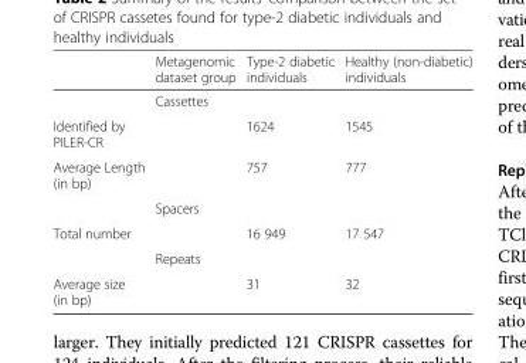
<table><thead><tr><td></td><td>Metagenomic dataset group</td><td>Type-2 diabetic individuals</td><td>Healthy (non-diabetic) individuals</td></tr></thead><tbody><tr><td></td><td>Cassettes</td><td></td><td></td></tr><tr><td>Identified by PILER-CR</td><td></td><td>1624</td><td>1545</td></tr><tr><td rowspan="2">Average Length (in bp)</td><td></td><td>757</td><td>777</td></tr><tr><td>Spacers</td><td></td><td></td></tr><tr><td rowspan="2">Total number</td><td></td><td>16 949</td><td>17 547</td></tr><tr><td>Repeats</td><td></td><td></td></tr><tr><td>Average size (in bp)</td><td></td><td>31</td><td>32</td></tr></tbody></table>